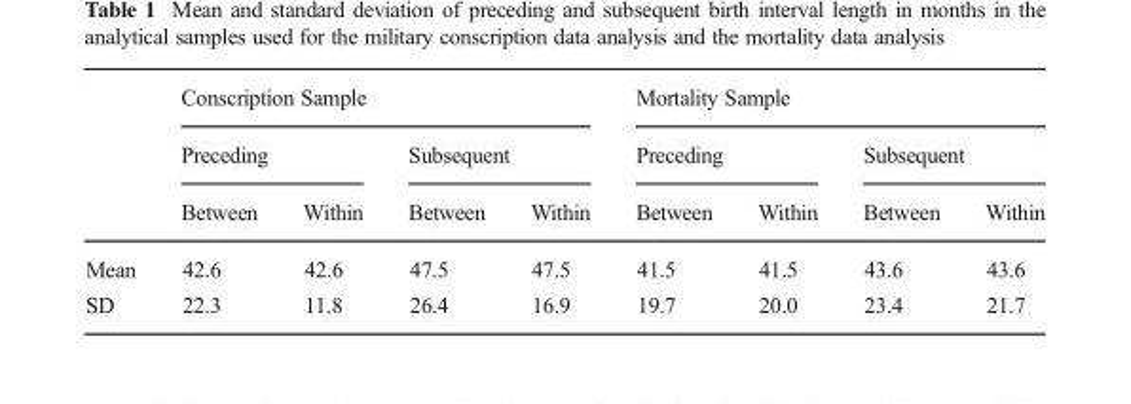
<table><thead><tr><td rowspan="3"></td><td colspan="4">Conscription Sample</td><td colspan="4">Mortality Sample</td></tr><tr><td colspan="2">Preceding</td><td colspan="2">Subsequent</td><td colspan="2">Preceding</td><td colspan="2">Subsequent</td></tr><tr><td>Between</td><td>Within</td><td>Between</td><td>Within</td><td>Between</td><td>Within</td><td>Between</td><td>Within</td></tr></thead><tbody><tr><td>Mean</td><td>42.6</td><td>42.6</td><td>47.5</td><td>47.5</td><td>41.5</td><td>41.5</td><td>43.6</td><td>43.6</td></tr><tr><td>SD</td><td>22.3</td><td>11.8</td><td>26.4</td><td>16.9</td><td>19.7</td><td>20.0</td><td>23.4</td><td>21.7</td></tr></tbody></table>